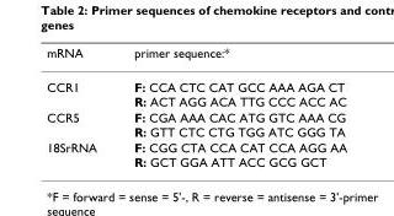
<table><thead><tr><td>mRNA</td><td>primer sequence:*</td></tr></thead><tbody><tr><td>CCR1</td><td>F: CCA CTC CAT GCC AAA AGA CT R: ACT AGG ACA TTG CCC ACC AC</td></tr><tr><td>CCR5</td><td>F: CGA AAA CAC ATG GTC AAA CG R: GTT CTC CTG TGG ATC GGG TA</td></tr><tr><td>18SrRNA</td><td>F: CGG CTA CCA CAT CCA AGG AA R: GCT GGA ATT ACC GCG GCT</td></tr></tbody></table>